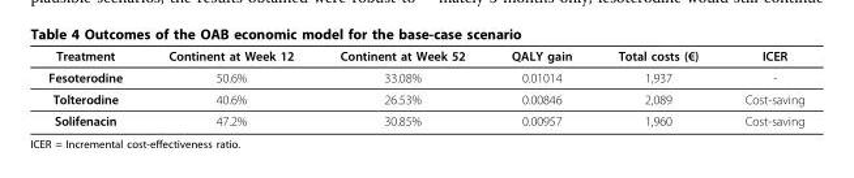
<table><thead><tr><td>Treatment</td><td>Continent at Week 12</td><td>Continent at Week 52</td><td>QALY gain</td><td>Total costs (€)</td><td>ICER</td></tr></thead><tbody><tr><td>Fesoterodine</td><td>50.6%</td><td>33.08%</td><td>0.01014</td><td>1,937</td><td>-</td></tr><tr><td>Tolterodine</td><td>40.6%</td><td>26.53%</td><td>0.00846</td><td>2,089</td><td>Cost-saving</td></tr><tr><td>Solifenacin</td><td>47.2%</td><td>30.85%</td><td>0.00957</td><td>1,960</td><td>Cost-saving</td></tr></tbody></table>